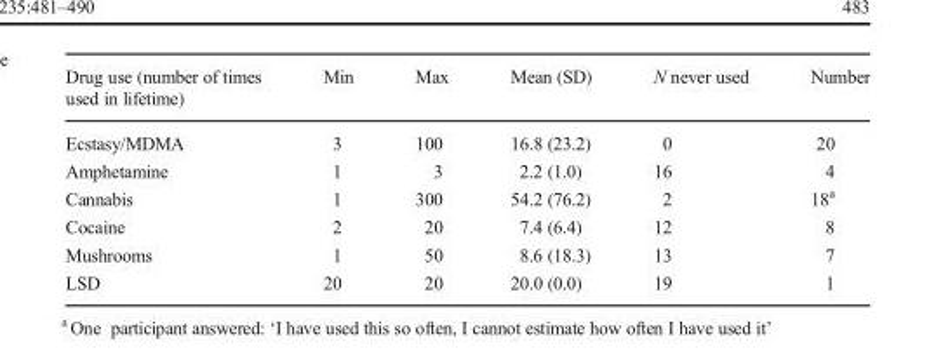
<table><thead><tr><td>Drug use (number of times used in lifetime)</td><td>Min</td><td>Max</td><td>Mean (SD)</td><td>N never used</td><td>Number</td></tr></thead><tbody><tr><td>Ecstasy/MDMA</td><td>3</td><td>100</td><td>16.8 (23.2)</td><td>0</td><td>20</td></tr><tr><td>Amphetamine</td><td>1</td><td>3</td><td>2.2 (1.0)</td><td>16</td><td>4</td></tr><tr><td>Cannabis</td><td>1</td><td>300</td><td>54.2 (76.2)</td><td>2</td><td>18<sup>a</sup></td></tr><tr><td>Cocaine</td><td>2</td><td>20</td><td>7.4 (6.4)</td><td>12</td><td>8</td></tr><tr><td>Mushrooms</td><td>1</td><td>50</td><td>8.6 (18.3)</td><td>13</td><td>7</td></tr><tr><td>LSD</td><td>20</td><td>20</td><td>20.0 (0.0)</td><td>19</td><td>1</td></tr></tbody></table>